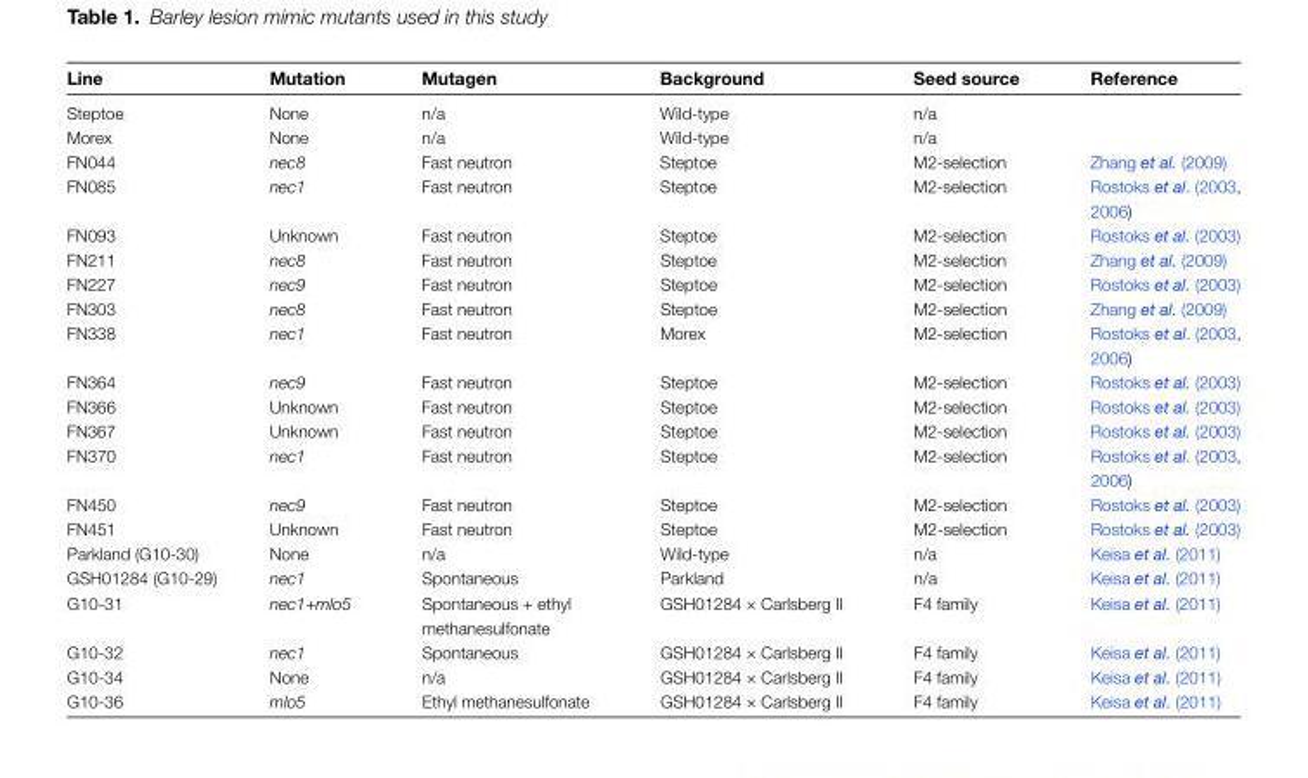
<table><thead><tr><td>Line</td><td>Mutation</td><td>Mutagen</td><td>Background</td><td>Seed source</td><td>Reference</td></tr></thead><tbody><tr><td>Steptoe</td><td>None</td><td>n/a</td><td>Wild-type</td><td>n/a</td><td></td></tr><tr><td>Morex</td><td>None</td><td>n/a</td><td>Wild-type</td><td>n/a</td><td></td></tr><tr><td>FN044</td><td>nec8</td><td>Fast neutron</td><td>Steptoe</td><td>M2-selection</td><td>Zhang et al. (2009)</td></tr><tr><td>FN085</td><td>nec1</td><td>Fast neutron</td><td>Steptoe</td><td>M2-selection</td><td>Rostoks et al. (2003, 2006)</td></tr><tr><td>FN093</td><td>Unknown</td><td>Fast neutron</td><td>Steptoe</td><td>M2-selection</td><td>Rostoks et al. (2003)</td></tr><tr><td>FN211</td><td>nec8</td><td>Fast neutron</td><td>Steptoe</td><td>M2-selection</td><td>Zhang et al. (2009)</td></tr><tr><td>FN227</td><td>nec9</td><td>Fast neutron</td><td>Steptoe</td><td>M2-selection</td><td>Rostoks et al. (2003)</td></tr><tr><td>FN303</td><td>nec8</td><td>Fast neutron</td><td>Steptoe</td><td>M2-selection</td><td>Zhang et al. (2009)</td></tr><tr><td>FN338</td><td>nec1</td><td>Fast neutron</td><td>Morex</td><td>M2-selection</td><td>Rostoks et al. (2003, 2006)</td></tr><tr><td>FN364</td><td>nec9</td><td>Fast neutron</td><td>Steptoe</td><td>M2-selection</td><td>Rostoks et al. (2003)</td></tr><tr><td>FN366</td><td>Unknown</td><td>Fast neutron</td><td>Steptoe</td><td>M2-selection</td><td>Rostoks et al. (2003)</td></tr><tr><td>FN367</td><td>Unknown</td><td>Fast neutron</td><td>Steptoe</td><td>M2-selection</td><td>Rostoks et al. (2003)</td></tr><tr><td>FN370</td><td>nec1</td><td>Fast neutron</td><td>Steptoe</td><td>M2-selection</td><td>Rostoks et al. (2003, 2006)</td></tr><tr><td>FN450</td><td>nec9</td><td>Fast neutron</td><td>Steptoe</td><td>M2-selection</td><td>Rostoks et al. (2003)</td></tr><tr><td>FN451</td><td>Unknown</td><td>Fast neutron</td><td>Steptoe</td><td>M2-selection</td><td>Rostoks et al. (2003)</td></tr><tr><td>Parkland (G10-30)</td><td>None</td><td>n/a</td><td>Wild-type</td><td>n/a</td><td>Keisa et al. (2011)</td></tr><tr><td>GSH01284 (G10-29)</td><td>nec1</td><td>Spontaneous</td><td>Parkland</td><td>n/a</td><td>Keisa et al. (2011)</td></tr><tr><td>G10-31</td><td>nec1+mlo5</td><td>Spontaneous + ethyl methanesulfonate</td><td>GSH01284 × Carlsberg II</td><td>F4 family</td><td>Keisa et al. (2011)</td></tr><tr><td>G10-32</td><td>nec1</td><td>Spontaneous</td><td>GSH01284 × Carlsberg II</td><td>F4 family</td><td>Keisa et al. (2011)</td></tr><tr><td>G10-34</td><td>None</td><td>n/a</td><td>GSH01284 × Carlsberg II</td><td>F4 family</td><td>Keisa et al. (2011)</td></tr><tr><td>G10-36</td><td>mlo5</td><td>Ethyl methanesulfonate</td><td>GSH01284 × Carlsberg II</td><td>F4 family</td><td>Keisa et al. (2011)</td></tr></tbody></table>